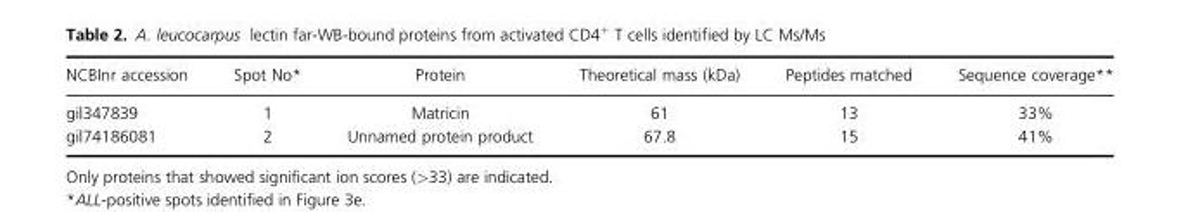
<table><thead><tr><td>NCBInr accession</td><td>Spot No*</td><td>Protein</td><td>Theoretical mass (kDa)</td><td>Peptides matched</td><td>Sequence coverage**</td></tr></thead><tbody><tr><td>gi|347839</td><td>1</td><td>Matricin</td><td>61</td><td>13</td><td>33%</td></tr><tr><td>gi|74186081</td><td>2</td><td>Unnamed protein product</td><td>67.8</td><td>15</td><td>41%</td></tr></tbody></table>